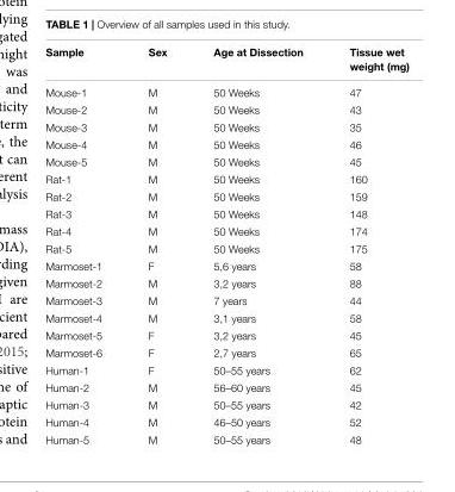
<table><thead><tr><td>Sample</td><td>Sex</td><td>Age at Dissection</td><td>Tissue wet weight (mg)</td></tr></thead><tbody><tr><td>Mouse-1</td><td>M</td><td>50 Weeks</td><td>47</td></tr><tr><td>Mouse-2</td><td>M</td><td>50 Weeks</td><td>43</td></tr><tr><td>Mouse-3</td><td>M</td><td>50 Weeks</td><td>35</td></tr><tr><td>Mouse-4</td><td>M</td><td>50 Weeks</td><td>46</td></tr><tr><td>Mouse-5</td><td>M</td><td>50 Weeks</td><td>45</td></tr><tr><td>Rat-1</td><td>M</td><td>50 Weeks</td><td>160</td></tr><tr><td>Rat-2</td><td>M</td><td>50 Weeks</td><td>159</td></tr><tr><td>Rat-3</td><td>M</td><td>50 Weeks</td><td>148</td></tr><tr><td>Rat-4</td><td>M</td><td>50 Weeks</td><td>174</td></tr><tr><td>Rat-5</td><td>M</td><td>50 Weeks</td><td>175</td></tr><tr><td>Marmoset-1</td><td>F</td><td>5,6 years</td><td>58</td></tr><tr><td>Marmoset-2</td><td>M</td><td>3,2 years</td><td>88</td></tr><tr><td>Marmoset-3</td><td>M</td><td>7 years</td><td>44</td></tr><tr><td>Marmoset-4</td><td>M</td><td>3,1 years</td><td>58</td></tr><tr><td>Marmoset-5</td><td>F</td><td>3,2 years</td><td>45</td></tr><tr><td>Marmoset-6</td><td>F</td><td>2,7 years</td><td>65</td></tr><tr><td>Human-1</td><td>F</td><td>50–55 years</td><td>62</td></tr><tr><td>Human-2</td><td>M</td><td>56–60 years</td><td>45</td></tr><tr><td>Human-3</td><td>M</td><td>50–55 years</td><td>42</td></tr><tr><td>Human-4</td><td>M</td><td>46–50 years</td><td>52</td></tr><tr><td>Human-5</td><td>M</td><td>50–55 years</td><td>48</td></tr></tbody></table>